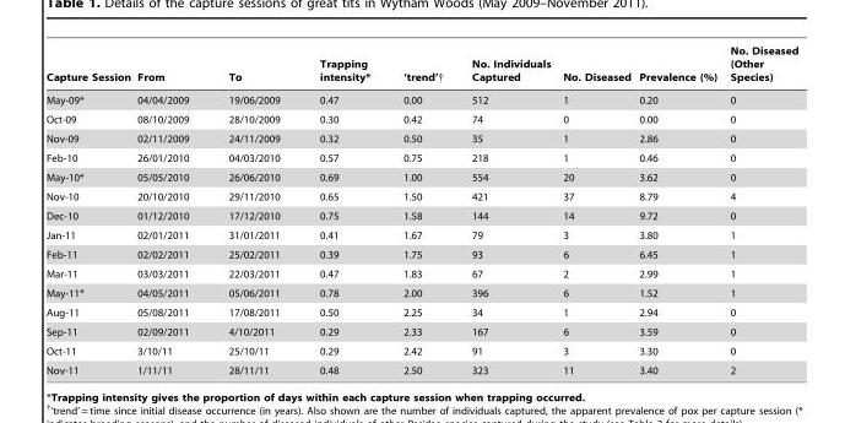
<table><thead><tr><td>Capture Session</td><td>From</td><td>To</td><td>Trapping intensity*</td><td>‘trend’†</td><td>No. Individuals Captured</td><td>No. Diseased</td><td>Prevalence (%)</td><td>No. Diseased (Other Species)</td></tr></thead><tbody><tr><td>May-09*</td><td>04/04/2009</td><td>19/06/2009</td><td>0.47</td><td>0.00</td><td>512</td><td>1</td><td>0.20</td><td>0</td></tr><tr><td>Oct-09</td><td>08/10/2009</td><td>28/10/2009</td><td>0.30</td><td>0.42</td><td>74</td><td>0</td><td>0.00</td><td>0</td></tr><tr><td>Nov-09</td><td>02/11/2009</td><td>24/11/2009</td><td>0.32</td><td>0.50</td><td>35</td><td>1</td><td>2.86</td><td>0</td></tr><tr><td>Feb-10</td><td>26/01/2010</td><td>04/03/2010</td><td>0.57</td><td>0.75</td><td>218</td><td>1</td><td>0.46</td><td>0</td></tr><tr><td>May-10*</td><td>05/05/2010</td><td>26/06/2010</td><td>0.69</td><td>1.00</td><td>554</td><td>20</td><td>3.62</td><td>0</td></tr><tr><td>Nov-10</td><td>20/10/2010</td><td>29/11/2010</td><td>0.65</td><td>1.50</td><td>421</td><td>37</td><td>8.79</td><td>4</td></tr><tr><td>Dec-10</td><td>01/12/2010</td><td>17/12/2010</td><td>0.75</td><td>1.58</td><td>144</td><td>14</td><td>9.72</td><td>0</td></tr><tr><td>Jan-11</td><td>02/01/2011</td><td>31/01/2011</td><td>0.41</td><td>1.67</td><td>79</td><td>3</td><td>3.80</td><td>1</td></tr><tr><td>Feb-11</td><td>02/02/2011</td><td>25/02/2011</td><td>0.39</td><td>1.75</td><td>93</td><td>6</td><td>6.45</td><td>1</td></tr><tr><td>Mar-11</td><td>03/03/2011</td><td>22/03/2011</td><td>0.47</td><td>1.83</td><td>67</td><td>2</td><td>2.99</td><td>1</td></tr><tr><td>May-11*</td><td>04/05/2011</td><td>05/06/2011</td><td>0.78</td><td>2.00</td><td>396</td><td>6</td><td>1.52</td><td>1</td></tr><tr><td>Aug-11</td><td>05/08/2011</td><td>17/08/2011</td><td>0.50</td><td>2.25</td><td>34</td><td>1</td><td>2.94</td><td>0</td></tr><tr><td>Sep-11</td><td>02/09/2011</td><td>4/10/2011</td><td>0.29</td><td>2.33</td><td>167</td><td>6</td><td>3.59</td><td>0</td></tr><tr><td>Oct-11</td><td>3/10/11</td><td>25/10/11</td><td>0.29</td><td>2.42</td><td>91</td><td>3</td><td>3.30</td><td>0</td></tr><tr><td>Nov-11</td><td>1/11/11</td><td>28/11/11</td><td>0.48</td><td>2.50</td><td>323</td><td>11</td><td>3.40</td><td>2</td></tr></tbody></table>